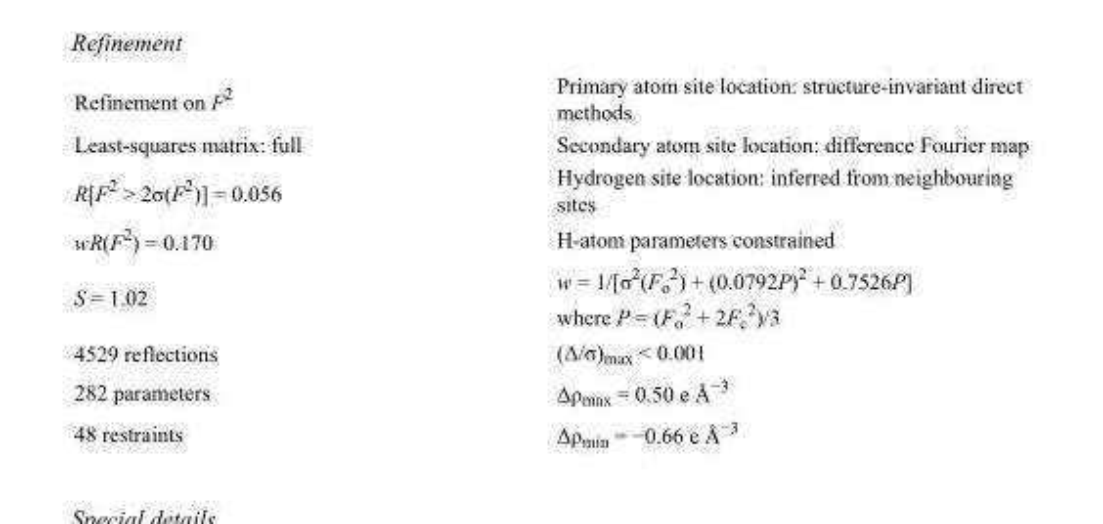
<table><tbody><tr><td>Refinement on F<sup>2</sup></td><td>Primary atom site location: structure-invariant direct methods</td></tr><tr><td>Least-squares matrix: full</td><td>Secondary atom site location: difference Fourier map</td></tr><tr><td>R[F<sup>2</sup> &gt; 2σ(F<sup>2</sup>)] = 0.056</td><td>Hydrogen site location: inferred from neighbouring sites</td></tr><tr><td>wR(F<sup>2</sup>) = 0.170</td><td>H-atom parameters constrained</td></tr><tr><td>S = 1.02</td><td>w = 1/[σ<sup>2</sup>(F<sub>o</sub> <sup>2</sup>) + (0.0792P)<sup>2</sup> + 0.7526P] where P = (F<sub>o</sub> <sup>2</sup> + 2F<sub>c</sub> <sup>2</sup>)/3</td></tr><tr><td>4529 reflections</td><td>(Δ/σ)<sub>max</sub> &lt; 0.001</td></tr><tr><td>282 parameters</td><td>Δρ<sub>max</sub> = 0.50 e Å<sup>−3</sup></td></tr><tr><td>48 restraints</td><td>Δρ<sub>min</sub> = −0.66 e Å<sup>−3</sup></td></tr></tbody></table>